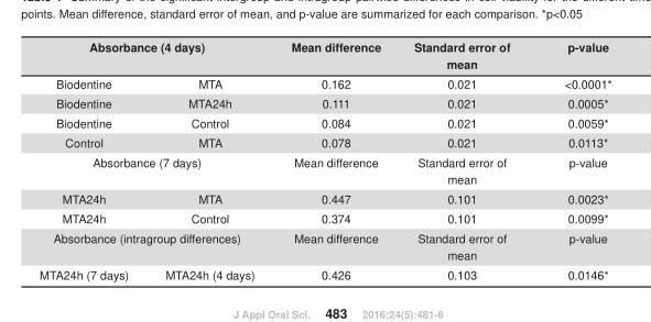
<table><thead><tr><td colspan="2">Absorbance (4 days)</td><td rowspan="2">Mean difference 0.162</td><td rowspan="2">Standard error of mean 0.021</td><td rowspan="2">p-value &lt;0.0001*</td></tr><tr><td>Biodentine</td><td>MTA</td></tr></thead><tbody><tr><td>Biodentine</td><td>MTA24h</td><td>0.111</td><td>0.021</td><td>0.0005*</td></tr><tr><td>Biodentine</td><td>Control</td><td>0.084</td><td>0.021</td><td>0.0059*</td></tr><tr><td>Control</td><td>MTA</td><td>0.078</td><td>0.021</td><td>0.0113*</td></tr><tr><td colspan="2">Absorbance (7 days)</td><td>Mean difference</td><td>Standard error of mean</td><td>p-value</td></tr><tr><td>MTA24h</td><td>MTA</td><td>0.447</td><td>0.101</td><td>0.0023*</td></tr><tr><td>MTA24h</td><td>Control</td><td>0.374</td><td>0.101</td><td>0.0099*</td></tr><tr><td colspan="2">Absorbance (intragroup differences)</td><td>Mean difference</td><td>Standard error of mean</td><td>p-value</td></tr><tr><td>MTA24h (7 days)</td><td>MTA24h (4 days)</td><td>0.426</td><td>0.103</td><td>0.0146*</td></tr></tbody></table>